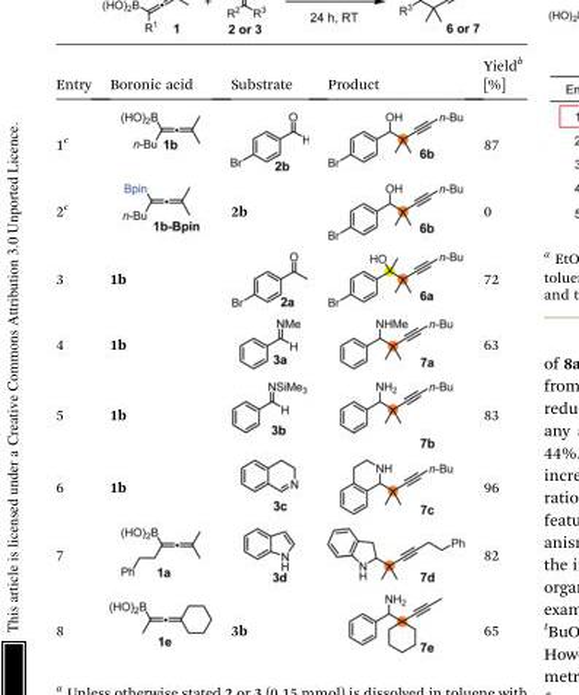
<table><thead><tr><td>Entry</td><td>Boronic acid</td><td>Substrate</td><td>Product</td><td>Yield<sup>b</sup> [%]</td></tr></thead><tbody><tr><td>1<sup>c</sup></td><td></td><td></td><td></td><td>87</td></tr><tr><td>2<sup>c</sup></td><td></td><td>2b</td><td></td><td>0</td></tr><tr><td>3</td><td>1b</td><td></td><td></td><td>72</td></tr><tr><td>4</td><td>1b</td><td></td><td></td><td>63</td></tr><tr><td>5</td><td>1b</td><td></td><td></td><td>83</td></tr><tr><td>6</td><td>1b</td><td></td><td></td><td>96</td></tr><tr><td>7</td><td></td><td></td><td></td><td>82</td></tr><tr><td>8</td><td></td><td>3b</td><td></td><td>65</td></tr></tbody></table>